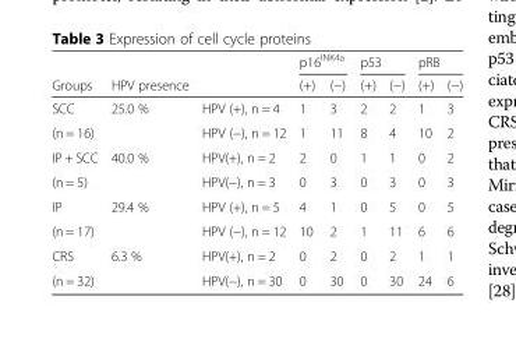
<table><thead><tr><td rowspan="2">Groups</td><td rowspan="2">HPV presence</td><td rowspan="2"></td><td colspan="2">p16<sup>INK4a</sup></td><td colspan="2">p53</td><td colspan="2">pRB</td></tr><tr><td>(+)</td><td>(−)</td><td>(+)</td><td>(−)</td><td>(+)</td><td>(−)</td></tr></thead><tbody><tr><td>SCC</td><td>25.0 %</td><td>HPV (+), n = 4</td><td>1</td><td>3</td><td>2</td><td>2</td><td>1</td><td>3</td></tr><tr><td>(n = 16)</td><td></td><td>HPV (−), n = 12</td><td>1</td><td>11</td><td>8</td><td>4</td><td>10</td><td>2</td></tr><tr><td>IP + SCC</td><td>40.0 %</td><td>HPV(+), n = 2</td><td>2</td><td>0</td><td>1</td><td>1</td><td>0</td><td>2</td></tr><tr><td>(n = 5)</td><td></td><td>HPV(−), n = 3</td><td>0</td><td>3</td><td>0</td><td>3</td><td>0</td><td>3</td></tr><tr><td>IP</td><td>29.4 %</td><td>HPV (+), n = 5</td><td>4</td><td>1</td><td>0</td><td>5</td><td>0</td><td>5</td></tr><tr><td>(n = 17)</td><td></td><td>HPV (−), n = 12</td><td>10</td><td>2</td><td>1</td><td>11</td><td>6</td><td>6</td></tr><tr><td>CRS</td><td>6.3 %</td><td>HPV(+), n = 2</td><td>0</td><td>2</td><td>0</td><td>2</td><td>1</td><td>1</td></tr><tr><td>(n = 32)</td><td></td><td>HPV(−), n = 30</td><td>0</td><td>30</td><td>0</td><td>30</td><td>24</td><td>6</td></tr></tbody></table>